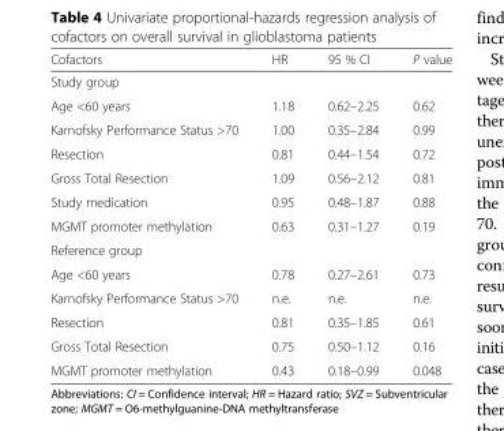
<table><thead><tr><td>Cofactors</td><td>HR</td><td>95 % CI</td><td>P value</td></tr></thead><tbody><tr><td colspan="4">Study group</td></tr><tr><td>Age &lt;60 years</td><td>1.18</td><td>0.62–2.25</td><td>0.62</td></tr><tr><td>Karnofsky Performance Status &gt;70</td><td>1.00</td><td>0.35–2.84</td><td>0.99</td></tr><tr><td>Resection</td><td>0.81</td><td>0.44–1.54</td><td>0.72</td></tr><tr><td>Gross Total Resection</td><td>1.09</td><td>0.56–2.12</td><td>0.81</td></tr><tr><td>Study medication</td><td>0.95</td><td>0.48–1.87</td><td>0.88</td></tr><tr><td>MGMT promoter methylation</td><td>0.63</td><td>0.31–1.27</td><td>0.19</td></tr><tr><td colspan="4">Reference group</td></tr><tr><td>Age &lt;60 years</td><td>0.78</td><td>0.27–2.61</td><td>0.73</td></tr><tr><td>Karnofsky Performance Status &gt;70</td><td>n.e.</td><td>n.e.</td><td>n.e.</td></tr><tr><td>Resection</td><td>0.81</td><td>0.35–1.85</td><td>0.61</td></tr><tr><td>Gross Total Resection</td><td>0.75</td><td>0.50–1.12</td><td>0.16</td></tr><tr><td>MGMT promoter methylation</td><td>0.43</td><td>0.18–0.99</td><td>0.048</td></tr></tbody></table>